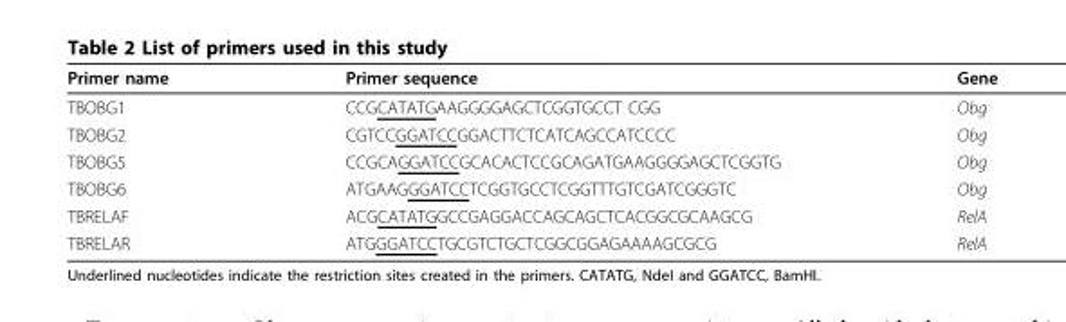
<table><thead><tr><td>Primer name</td><td>Primer sequence</td><td>Gene</td></tr></thead><tbody><tr><td>TBOBG1</td><td>CCGCATATGAAGGGGAGCTCGGTGCCT CGG</td><td>Obg</td></tr><tr><td>TBOBG2</td><td>CGTCCGGATCCGGACTTCTCATCAGCCATCCCC</td><td>Obg</td></tr><tr><td>TBOBG5</td><td>CCGCAGGATCCGCACACTCCGCAGATGAAGGGGAGCTCGGTG</td><td>Obg</td></tr><tr><td>TBOBG6</td><td>ATGAAGGGATCCTCGGTGCCTCGGTTTGTCGATCGGGTC</td><td>Obg</td></tr><tr><td>TBRELAF</td><td>ACGCATATGGCCGAGGACCAGCAGCTCACGGCGCAAGCG</td><td>RelA</td></tr><tr><td>TBRELAR</td><td>ATGGGATCCTGCGTCTGCTCGGCGGAGAAAAGCGCG</td><td>RelA</td></tr></tbody></table>